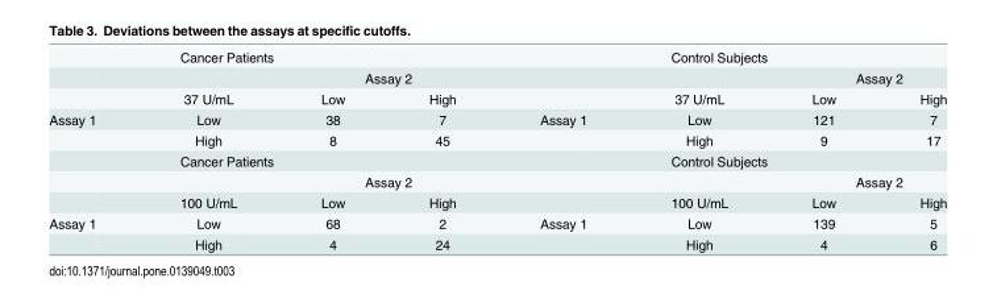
<table><thead><tr><td rowspan="3"></td><td colspan="3">Cancer Patients</td><td rowspan="3"></td><td colspan="3">Control Subjects</td></tr><tr><td rowspan="2">37 U/mL</td><td colspan="2">Assay 2</td><td rowspan="2">37 U/mL</td><td colspan="2">Assay 2</td></tr><tr><td>Low</td><td>High</td><td>Low</td><td>High</td></tr></thead><tbody><tr><td rowspan="5">Assay 1</td><td>Low</td><td>38</td><td>7</td><td>Assay 1</td><td>Low</td><td>121</td><td>7</td></tr><tr><td>High</td><td>8</td><td>45</td><td></td><td>High</td><td>9</td><td>17</td></tr><tr><td colspan="3">Cancer Patients</td><td></td><td colspan="3">Control Subjects</td></tr><tr><td></td><td colspan="2">Assay 2</td><td></td><td></td><td colspan="2">Assay 2</td></tr><tr><td>100 U/mL</td><td>Low</td><td>High</td><td></td><td>100 U/mL</td><td>Low</td><td>High</td></tr><tr><td rowspan="2">Assay 1</td><td>Low</td><td>68</td><td>2</td><td>Assay 1</td><td>Low</td><td>139</td><td>5</td></tr><tr><td>High</td><td>4</td><td>24</td><td></td><td>High</td><td>4</td><td>6</td></tr></tbody></table>